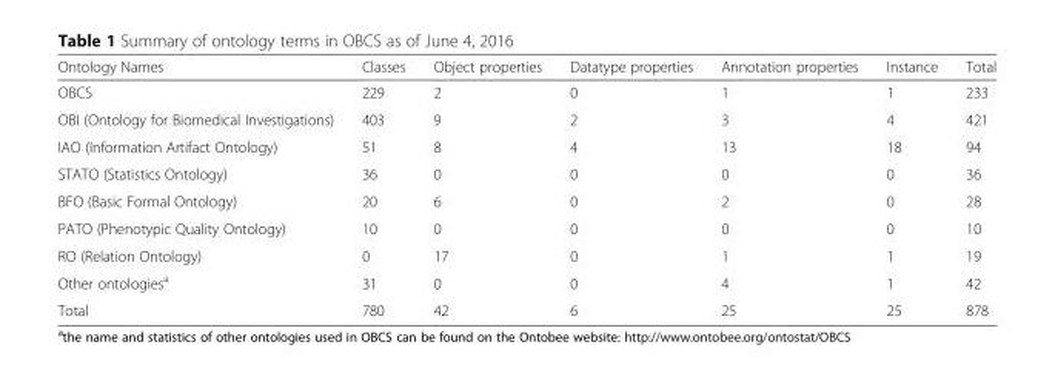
<table><thead><tr><td>Ontology Names</td><td>Classes</td><td>Object properties</td><td>Datatype properties</td><td>Annotation properties</td><td>Instance</td><td>Total</td></tr></thead><tbody><tr><td>OBCS</td><td>229</td><td>2</td><td>0</td><td>1</td><td>1</td><td>233</td></tr><tr><td>OBI (Ontology for Biomedical Investigations)</td><td>403</td><td>9</td><td>2</td><td>3</td><td>4</td><td>421</td></tr><tr><td>IAO (Information Artifact Ontology)</td><td>51</td><td>8</td><td>4</td><td>13</td><td>18</td><td>94</td></tr><tr><td>STATO (Statistics Ontology)</td><td>36</td><td>0</td><td>0</td><td>0</td><td>0</td><td>36</td></tr><tr><td>BFO (Basic Formal Ontology)</td><td>20</td><td>6</td><td>0</td><td>2</td><td>0</td><td>28</td></tr><tr><td>PATO (Phenotypic Quality Ontology)</td><td>10</td><td>0</td><td>0</td><td>0</td><td>0</td><td>10</td></tr><tr><td>RO (Relation Ontology)</td><td>0</td><td>17</td><td>0</td><td>1</td><td>1</td><td>19</td></tr><tr><td>Other ontologies<sup>a</sup></td><td>31</td><td>0</td><td>0</td><td>4</td><td>1</td><td>42</td></tr><tr><td>Total</td><td>780</td><td>42</td><td>6</td><td>25</td><td>25</td><td>878</td></tr></tbody></table>